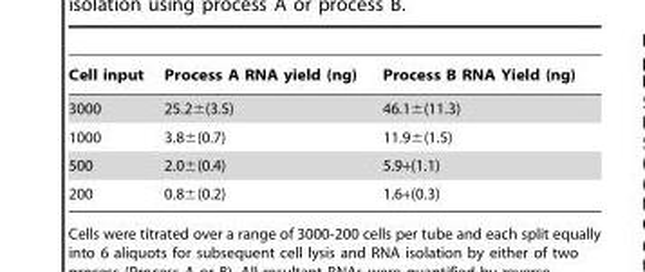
<table><thead><tr><td>Cell input</td><td>Process A RNA yield (ng)</td><td>Process B RNA Yield (ng)</td></tr></thead><tbody><tr><td>3000</td><td>25.2±(3.5)</td><td>46.1±(11.3)</td></tr><tr><td>1000</td><td>3.8±(0.7)</td><td>11.9±(1.5)</td></tr><tr><td>500</td><td>2.0±(0.4)</td><td>5.9+(1.1)</td></tr><tr><td>200</td><td>0.8±(0.2)</td><td>1.6+(0.3)</td></tr></tbody></table>